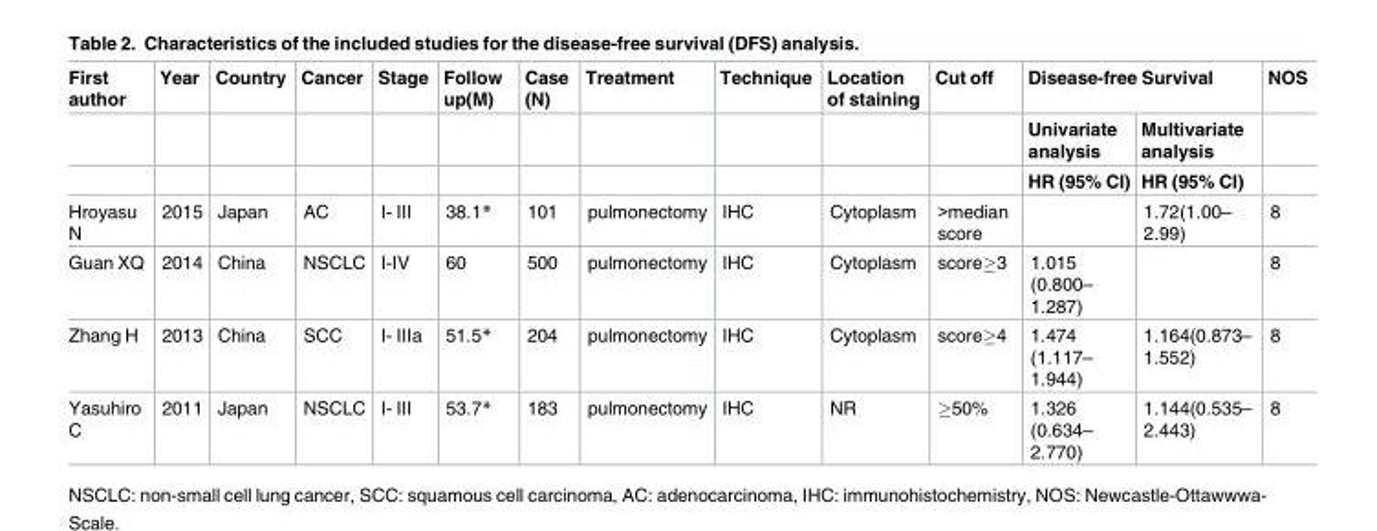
<table><thead><tr><td rowspan="3">First author</td><td rowspan="3">Year</td><td rowspan="3">Country</td><td rowspan="3">Cancer</td><td rowspan="3">Stage</td><td rowspan="3">Follow up(M)</td><td rowspan="3">Case (N)</td><td rowspan="3">Treatment</td><td rowspan="3">Technique</td><td rowspan="3">Location of staining</td><td rowspan="3">Cut off</td><td colspan="2">Disease-free Survival</td><td rowspan="3">NOS</td></tr><tr><td rowspan="2">Univariate analysis HR (95% CI)</td><td rowspan="2">Multivariate analysis HR (95% CI)</td></tr><tr></tr></thead><tbody><tr><td>Hroyasu N</td><td>2015</td><td>Japan</td><td>AC</td><td>I- III</td><td>38.1*</td><td>101</td><td>pulmonectomy</td><td>IHC</td><td>Cytoplasm</td><td>&gt;median score</td><td></td><td>1.72(1.00– 2.99)</td><td>8</td></tr><tr><td>Guan XQ</td><td>2014</td><td>China</td><td>NSCLC</td><td>I-IV</td><td>60</td><td>500</td><td>pulmonectomy</td><td>IHC</td><td>Cytoplasm</td><td>score≥3</td><td>1.015 (0.800– 1.287)</td><td></td><td>8</td></tr><tr><td>Zhang H</td><td>2013</td><td>China</td><td>SCC</td><td>I- IIIa</td><td>51.5*</td><td>204</td><td>pulmonectomy</td><td>IHC</td><td>Cytoplasm</td><td>score≥4</td><td>1.474 (1.117– 1.944)</td><td>1.164(0.873– 1.552)</td><td>8</td></tr><tr><td>Yasuhiro C</td><td>2011</td><td>Japan</td><td>NSCLC</td><td>I- III</td><td>53.7*</td><td>183</td><td>pulmonectomy</td><td>IHC</td><td>NR</td><td>≥50%</td><td>1.326 (0.634– 2.770)</td><td>1.144(0.535– 2.443)</td><td>8</td></tr></tbody></table>